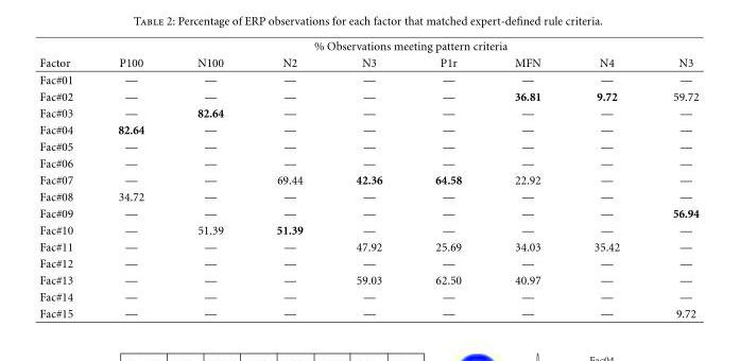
<table><thead><tr><td rowspan="2">Factor</td><td colspan="8">% Observations meeting pattern criteria</td></tr><tr><td>P100</td><td>N100</td><td>N2</td><td>N3</td><td>P1r</td><td>MFN</td><td>N4</td><td>N3</td></tr></thead><tbody><tr><td>Fac#01</td><td>—</td><td>—</td><td>—</td><td>—</td><td>—</td><td>—</td><td>—</td><td>—</td></tr><tr><td>Fac#02</td><td>—</td><td>—</td><td>—</td><td>—</td><td>—</td><td>36.81</td><td>9.72</td><td>59.72</td></tr><tr><td>Fac#03</td><td>—</td><td>82.64</td><td>—</td><td>—</td><td>—</td><td>—</td><td>—</td><td>—</td></tr><tr><td>Fac#04</td><td>82.64</td><td>—</td><td>—</td><td>—</td><td>—</td><td>—</td><td>—</td><td>—</td></tr><tr><td>Fac#05</td><td>—</td><td>—</td><td>—</td><td>—</td><td>—</td><td>—</td><td>—</td><td>—</td></tr><tr><td>Fac#06</td><td>—</td><td>—</td><td>—</td><td>—</td><td>—</td><td>—</td><td>—</td><td>—</td></tr><tr><td>Fac#07</td><td>—</td><td>—</td><td>69.44</td><td>42.36</td><td>64.58</td><td>22.92</td><td>—</td><td>—</td></tr><tr><td>Fac#08</td><td>34.72</td><td>—</td><td>—</td><td>—</td><td>—</td><td>—</td><td>—</td><td>—</td></tr><tr><td>Fac#09</td><td>—</td><td>—</td><td>—</td><td>—</td><td>—</td><td>—</td><td>—</td><td>56.94</td></tr><tr><td>Fac#10</td><td>—</td><td>51.39</td><td>51.39</td><td>—</td><td>—</td><td>—</td><td>—</td><td>—</td></tr><tr><td>Fac#11</td><td>—</td><td>—</td><td>—</td><td>47.92</td><td>25.69</td><td>34.03</td><td>35.42</td><td>—</td></tr><tr><td>Fac#12</td><td>—</td><td>—</td><td>—</td><td>—</td><td>—</td><td>—</td><td>—</td><td>—</td></tr><tr><td>Fac#13</td><td>—</td><td>—</td><td>—</td><td>59.03</td><td>62.50</td><td>40.97</td><td>—</td><td>—</td></tr><tr><td>Fac#14</td><td>—</td><td>—</td><td>—</td><td>—</td><td>—</td><td>—</td><td>—</td><td>—</td></tr><tr><td>Fac#15</td><td>—</td><td>—</td><td>—</td><td>—</td><td>—</td><td>—</td><td>—</td><td>9.72</td></tr></tbody></table>